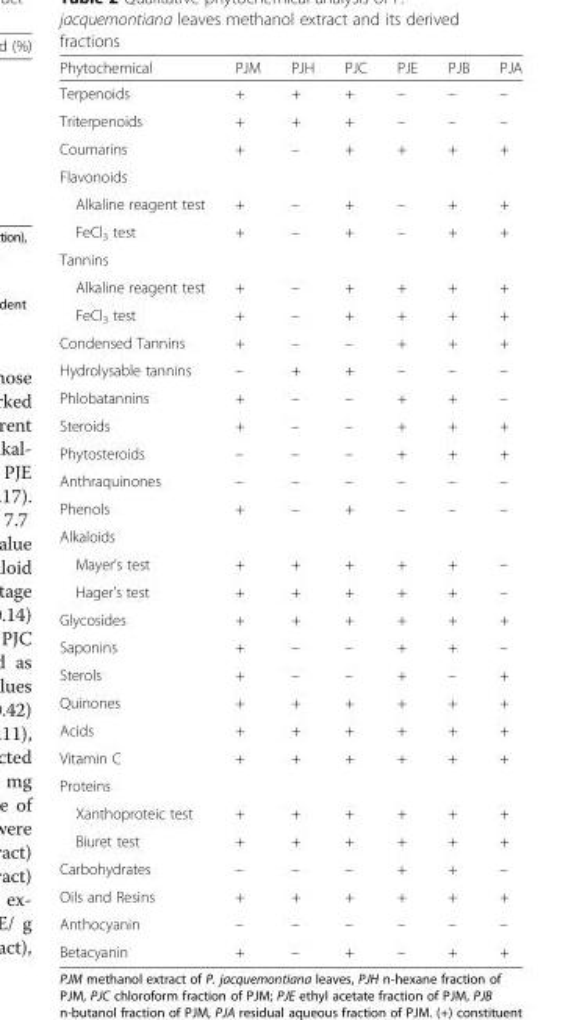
<table><thead><tr><td>Phytochemical</td><td>PJM</td><td>PJH</td><td>PJC</td><td>PJE</td><td>PJB</td><td>PJA</td></tr></thead><tbody><tr><td>Terpenoids</td><td>+</td><td>+</td><td>+</td><td>–</td><td>–</td><td>–</td></tr><tr><td>Triterpenoids</td><td>+</td><td>+</td><td>+</td><td>–</td><td>–</td><td>–</td></tr><tr><td>Coumarins</td><td>+</td><td>–</td><td>+</td><td>+</td><td>+</td><td>+</td></tr><tr><td colspan="7">Flavonoids</td></tr><tr><td>Alkaline reagent test</td><td>+</td><td>–</td><td>+</td><td>–</td><td>+</td><td>+</td></tr><tr><td>FeCl<sub>3</sub> test</td><td>+</td><td>–</td><td>+</td><td>–</td><td>+</td><td>+</td></tr><tr><td colspan="7">Tannins</td></tr><tr><td>Alkaline reagent test</td><td>+</td><td>–</td><td>+</td><td>+</td><td>+</td><td>+</td></tr><tr><td>FeCl<sub>3</sub> test</td><td>+</td><td>–</td><td>+</td><td>+</td><td>+</td><td>+</td></tr><tr><td>Condensed Tannins</td><td>+</td><td>–</td><td>–</td><td>+</td><td>+</td><td>+</td></tr><tr><td>Hydrolysable tannins</td><td>–</td><td>+</td><td>+</td><td>–</td><td>–</td><td>–</td></tr><tr><td>Phlobatannins</td><td>+</td><td>–</td><td>–</td><td>+</td><td>+</td><td>–</td></tr><tr><td>Steroids</td><td>+</td><td>–</td><td>–</td><td>+</td><td>+</td><td>+</td></tr><tr><td>Phytosteroids</td><td>–</td><td>–</td><td>–</td><td>+</td><td>+</td><td>+</td></tr><tr><td>Anthraquinones</td><td>–</td><td>–</td><td>–</td><td>–</td><td>–</td><td>–</td></tr><tr><td>Phenols</td><td>+</td><td>–</td><td>+</td><td>–</td><td>–</td><td>–</td></tr><tr><td colspan="7">Alkaloids</td></tr><tr><td>Mayer’s test</td><td>+</td><td>+</td><td>+</td><td>+</td><td>+</td><td>–</td></tr><tr><td>Hager’s test</td><td>+</td><td>+</td><td>+</td><td>+</td><td>+</td><td>–</td></tr><tr><td>Glycosides</td><td>+</td><td>+</td><td>+</td><td>+</td><td>+</td><td>+</td></tr><tr><td>Saponins</td><td>+</td><td>–</td><td>–</td><td>+</td><td>+</td><td>–</td></tr><tr><td>Sterols</td><td>+</td><td>–</td><td>–</td><td>+</td><td>–</td><td>+</td></tr><tr><td>Quinones</td><td>+</td><td>+</td><td>+</td><td>+</td><td>+</td><td>+</td></tr><tr><td>Acids</td><td>+</td><td>+</td><td>+</td><td>+</td><td>+</td><td>+</td></tr><tr><td>Vitamin C</td><td>+</td><td>+</td><td>+</td><td>+</td><td>+</td><td>+</td></tr><tr><td colspan="7">Proteins</td></tr><tr><td>Xanthoproteic test</td><td>+</td><td>+</td><td>+</td><td>+</td><td>+</td><td>+</td></tr><tr><td>Biuret test</td><td>+</td><td>+</td><td>+</td><td>+</td><td>+</td><td>+</td></tr><tr><td>Carbohydrates</td><td>–</td><td>–</td><td>–</td><td>+</td><td>+</td><td>–</td></tr><tr><td>Oils and Resins</td><td>+</td><td>+</td><td>+</td><td>+</td><td>+</td><td>+</td></tr><tr><td>Anthocyanin</td><td>–</td><td>–</td><td>–</td><td>–</td><td>–</td><td>–</td></tr><tr><td>Betacyanin</td><td>+</td><td>–</td><td>+</td><td>–</td><td>+</td><td>+</td></tr></tbody></table>